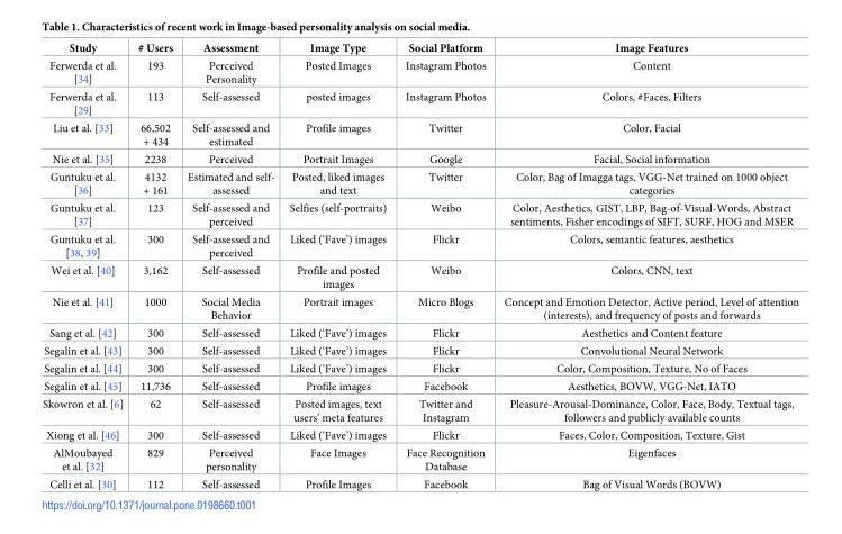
<table><thead><tr><td>Study</td><td># Users</td><td>Assessment</td><td>Image Type</td><td>Social Platform</td><td>Image Features</td></tr></thead><tbody><tr><td>Ferwerda et al. [34]</td><td>193</td><td>Perceived Personality</td><td>Posted Images</td><td>Instagram Photos</td><td>Content</td></tr><tr><td>Ferwerda et al. [29]</td><td>113</td><td>Self-assessed</td><td>posted images</td><td>Instagram Photos</td><td>Colors, #Faces, Filters</td></tr><tr><td>Liu et al. [33]</td><td>66,502 + 434</td><td>Self-assessed and estimated</td><td>Profile images</td><td>Twitter</td><td>Color, Facial</td></tr><tr><td>Nie et al. [35]</td><td>2238</td><td>Perceived</td><td>Portrait Images</td><td>Google</td><td>Facial, Social information</td></tr><tr><td>Guntuku et al. [36]</td><td>4132 + 161</td><td>Estimated and self- assessed</td><td>Posted, liked images and text</td><td>Twitter</td><td>Color, Bag of Imagga tags, VGG-Net trained on 1000 object categories</td></tr><tr><td>Guntuku et al. [37]</td><td>123</td><td>Self-assessed and perceived</td><td>Selfies (self-portraits)</td><td>Weibo</td><td>Color, Aesthetics, GIST, LBP, Bag-of-Visual-Words, Abstract sentiments, Fisher encodings of SIFT, SURF, HOG and MSER</td></tr><tr><td>Guntuku et al. [38, 39]</td><td>300</td><td>Self-assessed and perceived</td><td>Liked (‘Fave’) images</td><td>Flickr</td><td>Colors, semantic features, aesthetics</td></tr><tr><td>Wei et al. [40]</td><td>3,162</td><td>Self-assessed</td><td>Profile and posted images</td><td>Weibo</td><td>Colors, CNN, text</td></tr><tr><td>Nie et al. [41]</td><td>1000</td><td>Social Media Behavior</td><td>Portrait images</td><td>Micro Blogs</td><td>Concept and Emotion Detector, Active period, Level of attention (interests), and frequency of posts and forwards</td></tr><tr><td>Sang et al. [42]</td><td>300</td><td>Self-assessed</td><td>Liked (‘Fave’) images</td><td>Flickr</td><td>Aesthetics and Content feature</td></tr><tr><td>Segalin et al. [43]</td><td>300</td><td>Self-assessed</td><td>Liked (‘Fave’) images</td><td>Flickr</td><td>Convolutional Neural Network</td></tr><tr><td>Segalin et al. [44]</td><td>300</td><td>Self-assessed</td><td>Liked (‘Fave’) images</td><td>Flickr</td><td>Color, Composition, Texture, No of Faces</td></tr><tr><td>Segalin et al. [45]</td><td>11,736</td><td>Self-assessed</td><td>Profile images</td><td>Facebook</td><td>Aesthetics, BOVW, VGG-Net, IATO</td></tr><tr><td>Skowron et al. [6]</td><td>62</td><td>Self-assessed</td><td>Posted images, text users’ meta features</td><td>Twitter and Instagram</td><td>Pleasure-Arousal-Dominance, Color, Face, Body, Textual tags, followers and publicly available counts</td></tr><tr><td>Xiong et al. [46]</td><td>300</td><td>Self-assessed</td><td>Liked (‘Fave’) images</td><td>Flickr</td><td>Faces, Color, Composition, Texture, Gist</td></tr><tr><td>AlMoubayed et al. [32]</td><td>829</td><td>Perceived personality</td><td>Face Images</td><td>Face Recognition Database</td><td>Eigenfaces</td></tr><tr><td>Celli et al. [30]</td><td>112</td><td>Self-assessed</td><td>Profile Images</td><td>Facebook</td><td>Bag of Visual Words (BOVW)</td></tr></tbody></table>